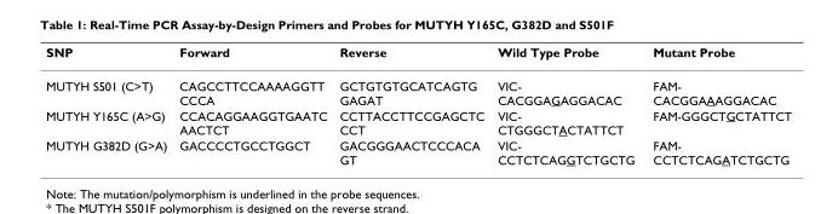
<table><thead><tr><td>SNP</td><td>Forward</td><td>Reverse</td><td>Wild Type Probe</td><td>Mutant Probe</td></tr></thead><tbody><tr><td>MUTYH S501 (C&gt;T)</td><td>CAGCCTTCCAAAAGGTT CCCA</td><td>GCTGTGTGCATCAGTG GAGAT</td><td>VIC- CACGGAGAGGACAC</td><td>FAM- CACGGAAAGGACAC</td></tr><tr><td>MUTYH Y165C (A&gt;G)</td><td>CCACAGGAAGGTGAATC AACTCT</td><td>CCTTACCTTCCGAGCTC CCT</td><td>VIC- CTGGGCTACTATTCT</td><td>FAM-GGGCTGCTATTCT</td></tr><tr><td>MUTYH G382D (G&gt;A)</td><td>GACCCCTGCCTGGCT</td><td>GACGGGAACTCCCACA GT</td><td>VIC- CCTCTCAGGTCTGCTG</td><td>FAM- CCTCTCAGATCTGCTG</td></tr></tbody></table>